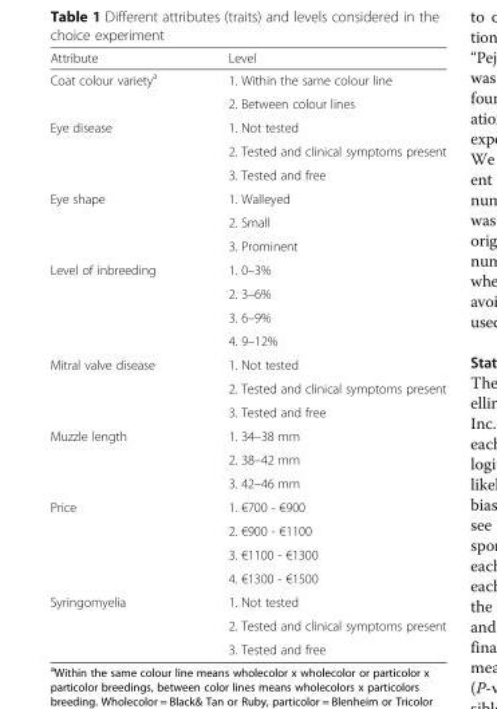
<table><thead><tr><td>Attribute</td><td>Level</td></tr></thead><tbody><tr><td rowspan="2">Coat colour variety<sup>a</sup></td><td>1. Within the same colour line</td></tr><tr><td>2. Between colour lines</td></tr><tr><td rowspan="3">Eye disease</td><td>1. Not tested</td></tr><tr><td>2. Tested and clinical symptoms present</td></tr><tr><td>3. Tested and free</td></tr><tr><td rowspan="3">Eye shape</td><td>1. Walleyed</td></tr><tr><td>2. Small</td></tr><tr><td>3. Prominent</td></tr><tr><td rowspan="4">Level of inbreeding</td><td>1. 0–3%</td></tr><tr><td>2. 3–6%</td></tr><tr><td>3. 6–9%</td></tr><tr><td>4. 9–12%</td></tr><tr><td rowspan="3">Mitral valve disease</td><td>1. Not tested</td></tr><tr><td>2. Tested and clinical symptoms present</td></tr><tr><td>3. Tested and free</td></tr><tr><td rowspan="3">Muzzle length</td><td>1. 34–38 mm</td></tr><tr><td>2. 38–42 mm</td></tr><tr><td>3. 42–46 mm</td></tr><tr><td rowspan="4">Price</td><td>1. €700 - €900</td></tr><tr><td>2. €900 - €1100</td></tr><tr><td>3. €1100 - €1300</td></tr><tr><td>4. €1300 - €1500</td></tr><tr><td rowspan="3">Syringomyelia</td><td>1. Not tested</td></tr><tr><td>2. Tested and clinical symptoms present</td></tr><tr><td>3. Tested and free</td></tr></tbody></table>